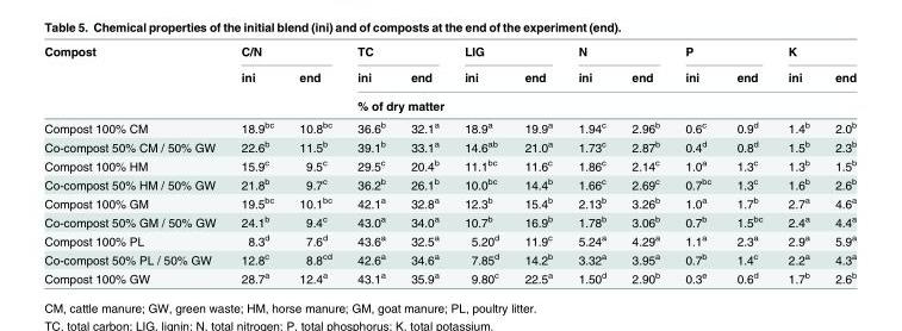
<table><thead><tr><td rowspan="3">Compost</td><td colspan="2">C/N</td><td colspan="2">TC</td><td colspan="2">LIG</td><td colspan="2">N</td><td colspan="2">P</td><td colspan="2">K</td></tr><tr><td rowspan="2">ini</td><td rowspan="2">end</td><td>ini</td><td>end</td><td>ini</td><td>end</td><td>ini</td><td>end</td><td>ini</td><td>end</td><td>ini</td><td>end</td></tr><tr><td colspan="10">% of dry matter</td></tr></thead><tbody><tr><td>Compost 100% CM</td><td>18.9<sup>bc</sup></td><td>10.8<sup>bc</sup></td><td>36.6<sup>b</sup></td><td>32.1<sup>a</sup></td><td>18.9<sup>a</sup></td><td>19.9<sup>a</sup></td><td>1.94<sup>c</sup></td><td>2.96<sup>b</sup></td><td>0.6<sup>c</sup></td><td>0.9<sup>d</sup></td><td>1.4<sup>b</sup></td><td>2.0<sup>b</sup></td></tr><tr><td>Co-compost 50% CM / 50% GW</td><td>22.6<sup>b</sup></td><td>11.5<sup>b</sup></td><td>39.1<sup>b</sup></td><td>33.1<sup>a</sup></td><td>14.6<sup>ab</sup></td><td>21.0<sup>a</sup></td><td>1.73<sup>c</sup></td><td>2.87<sup>b</sup></td><td>0.4<sup>d</sup></td><td>0.8<sup>d</sup></td><td>1.5<sup>b</sup></td><td>2.3<sup>b</sup></td></tr><tr><td>Compost 100% HM</td><td>15.9<sup>c</sup></td><td>9.5<sup>c</sup></td><td>29.5<sup>c</sup></td><td>20.4<sup>b</sup></td><td>11.1<sup>bc</sup></td><td>11.6<sup>c</sup></td><td>1.86<sup>c</sup></td><td>2.14<sup>c</sup></td><td>1.0<sup>a</sup></td><td>1.3<sup>c</sup></td><td>1.3<sup>b</sup></td><td>1.5<sup>b</sup></td></tr><tr><td>Co-compost 50% HM / 50% GW</td><td>21.8<sup>b</sup></td><td>9.7<sup>c</sup></td><td>36.2<sup>b</sup></td><td>26.1<sup>b</sup></td><td>10.0<sup>bc</sup></td><td>14.4<sup>b</sup></td><td>1.66<sup>c</sup></td><td>2.69<sup>c</sup></td><td>0.7<sup>bc</sup></td><td>1.3<sup>c</sup></td><td>1.6<sup>b</sup></td><td>2.6<sup>b</sup></td></tr><tr><td>Compost 100% GM</td><td>19.5<sup>bc</sup></td><td>10.1<sup>bc</sup></td><td>42.1<sup>a</sup></td><td>32.8<sup>a</sup></td><td>12.3<sup>b</sup></td><td>15.4<sup>b</sup></td><td>2.13<sup>b</sup></td><td>3.26<sup>b</sup></td><td>1.0<sup>a</sup></td><td>1.7<sup>b</sup></td><td>2.7<sup>a</sup></td><td>4.6<sup>a</sup></td></tr><tr><td>Co-compost 50% GM / 50% GW</td><td>24.1<sup>b</sup></td><td>9.4<sup>c</sup></td><td>43.0<sup>a</sup></td><td>34.0<sup>a</sup></td><td>10.7<sup>b</sup></td><td>16.9<sup>b</sup></td><td>1.78<sup>b</sup></td><td>3.06<sup>b</sup></td><td>0.7<sup>b</sup></td><td>1.5<sup>bc</sup></td><td>2.4<sup>a</sup></td><td>4.4<sup>a</sup></td></tr><tr><td>Compost 100% PL</td><td>8.3<sup>d</sup></td><td>7.6<sup>d</sup></td><td>43.6<sup>a</sup></td><td>32.5<sup>a</sup></td><td>5.20<sup>d</sup></td><td>11.9<sup>c</sup></td><td>5.24<sup>a</sup></td><td>4.29<sup>a</sup></td><td>1.1<sup>a</sup></td><td>2.3<sup>a</sup></td><td>2.9<sup>a</sup></td><td>5.9<sup>a</sup></td></tr><tr><td>Co-compost 50% PL / 50% GW</td><td>12.8<sup>c</sup></td><td>8.8<sup>cd</sup></td><td>42.6<sup>a</sup></td><td>34.6<sup>a</sup></td><td>7.85<sup>d</sup></td><td>14.2<sup>b</sup></td><td>3.32<sup>a</sup></td><td>3.95<sup>a</sup></td><td>0.7<sup>b</sup></td><td>1.4<sup>c</sup></td><td>2.2<sup>a</sup></td><td>4.3<sup>a</sup></td></tr><tr><td>Compost 100% GW</td><td>28.7<sup>a</sup></td><td>12.4<sup>a</sup></td><td>43.1<sup>a</sup></td><td>35.9<sup>a</sup></td><td>9.80<sup>c</sup></td><td>22.5<sup>a</sup></td><td>1.50<sup>d</sup></td><td>2.90<sup>b</sup></td><td>0.3<sup>e</sup></td><td>0.6<sup>d</sup></td><td>1.7<sup>b</sup></td><td>2.6<sup>b</sup></td></tr></tbody></table>